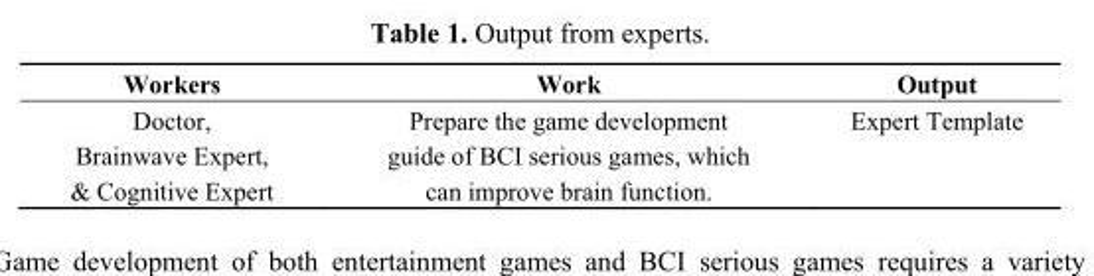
<table><thead><tr><td>Workers</td><td>Work</td><td>Output</td></tr></thead><tbody><tr><td>Doctor, Brainwave Expert, &amp; Cognitive Expert</td><td>Prepare the game development guide of BCI serious games, which can improve brain function.</td><td>Expert Template</td></tr></tbody></table>